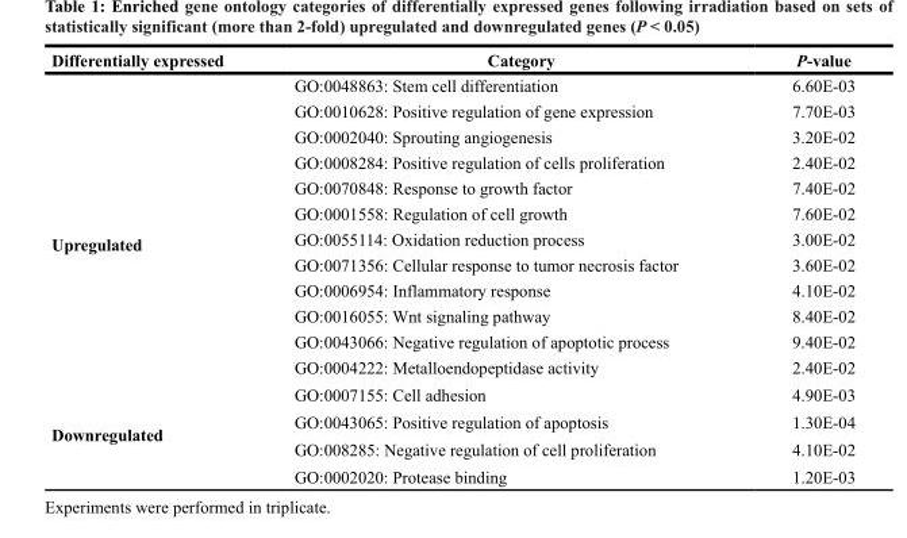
<table><thead><tr><td>Differentially expressed</td><td>Category</td><td>P-value</td></tr></thead><tbody><tr><td rowspan="12">Upregulated</td><td>GO:0048863: Stem cell differentiation</td><td>6.60E-03</td></tr><tr><td>GO:0010628: Positive regulation of gene expression</td><td>7.70E-03</td></tr><tr><td>GO:0002040: Sprouting angiogenesis</td><td>3.20E-02</td></tr><tr><td>GO:0008284: Positive regulation of cells proliferation</td><td>2.40E-02</td></tr><tr><td>GO:0070848: Response to growth factor</td><td>7.40E-02</td></tr><tr><td>GO:0001558: Regulation of cell growth</td><td>7.60E-02</td></tr><tr><td>GO:0055114: Oxidation reduction process</td><td>3.00E-02</td></tr><tr><td>GO:0071356: Cellular response to tumor necrosis factor</td><td>3.60E-02</td></tr><tr><td>GO:0006954: Inflammatory response</td><td>4.10E-02</td></tr><tr><td>GO:0016055: Wnt signaling pathway</td><td>8.40E-02</td></tr><tr><td>GO:0043066: Negative regulation of apoptotic process</td><td>9.40E-02</td></tr><tr><td>GO:0004222: Metalloendopeptidase activity</td><td>2.40E-02</td></tr><tr><td rowspan="4">Downregulated</td><td>GO:0007155: Cell adhesion</td><td>4.90E-03</td></tr><tr><td>GO:0043065: Positive regulation of apoptosis</td><td>1.30E-04</td></tr><tr><td>GO:008285: Negative regulation of cell proliferation</td><td>4.10E-02</td></tr><tr><td>GO:0002020: Protease binding</td><td>1.20E-03</td></tr></tbody></table>